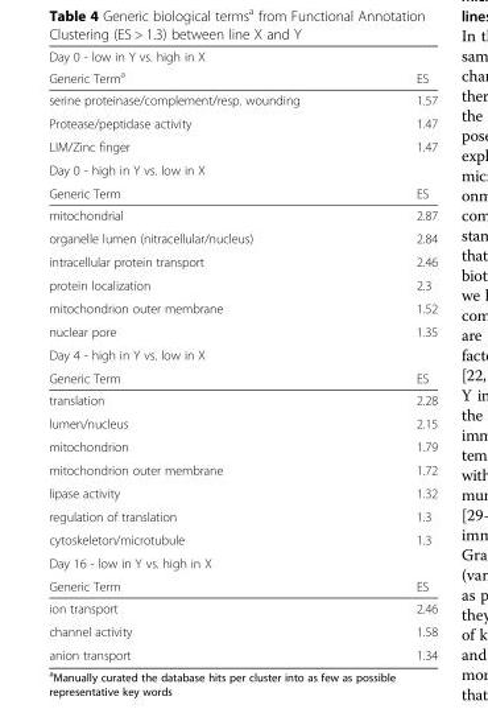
<table><thead><tr><td colspan="2">Day 0 - low in Y vs. high in X</td></tr><tr><td>Generic Term<sup>a</sup></td><td>ES</td></tr></thead><tbody><tr><td>serine proteinase/complement/resp. wounding</td><td>1.57</td></tr><tr><td>Protease/peptidase activity</td><td>1.47</td></tr><tr><td>LIM/Zinc finger</td><td>1.47</td></tr><tr><td colspan="2">Day 0 - high in Y vs. low in X</td></tr><tr><td>Generic Term</td><td>ES</td></tr><tr><td>mitochondrial</td><td>2.87</td></tr><tr><td>organelle lumen (nitracellular/nucleus)</td><td>2.84</td></tr><tr><td>intracellular protein transport</td><td>2.46</td></tr><tr><td>protein localization</td><td>2.3</td></tr><tr><td>mitochondrion outer membrane</td><td>1.52</td></tr><tr><td>nuclear pore</td><td>1.35</td></tr><tr><td colspan="2">Day 4 - high in Y vs. low in X</td></tr><tr><td>Generic Term</td><td>ES</td></tr><tr><td>translation</td><td>2.28</td></tr><tr><td>lumen/nucleus</td><td>2.15</td></tr><tr><td>mitochondrion</td><td>1.79</td></tr><tr><td>mitochondrion outer membrane</td><td>1.72</td></tr><tr><td>lipase activity</td><td>1.32</td></tr><tr><td>regulation of translation</td><td>1.3</td></tr><tr><td>cytoskeleton/microtubule</td><td>1.3</td></tr><tr><td colspan="2">Day 16 - low in Y vs. high in X</td></tr><tr><td>Generic Term</td><td>ES</td></tr><tr><td>ion transport</td><td>2.46</td></tr><tr><td>channel activity</td><td>1.58</td></tr><tr><td>anion transport</td><td>1.34</td></tr></tbody></table>